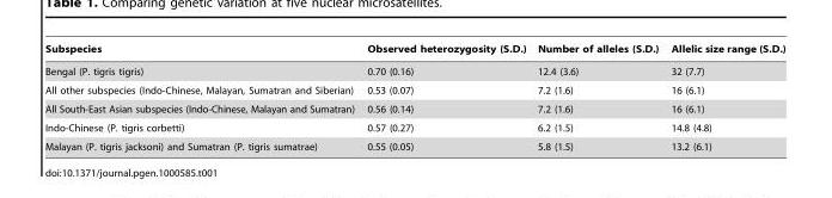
<table><thead><tr><td>Subspecies</td><td>Observed heterozygosity (S.D.)</td><td>Number of alleles (S.D.)</td><td>Allelic size range (S.D.)</td></tr></thead><tbody><tr><td>Bengal (P. tigris tigris)</td><td>0.70 (0.16)</td><td>12.4 (3.6)</td><td>32 (7.7)</td></tr><tr><td>All other subspecies (Indo-Chinese, Malayan, Sumatran and Siberian)</td><td>0.53 (0.07)</td><td>7.2 (1.6)</td><td>16 (6.1)</td></tr><tr><td>All South-East Asian subspecies (Indo-Chinese, Malayan and Sumatran)</td><td>0.56 (0.14)</td><td>7.2 (1.6)</td><td>16 (6.1)</td></tr><tr><td>Indo-Chinese (P. tigris corbetti)</td><td>0.57 (0.27)</td><td>6.2 (1.5)</td><td>14.8 (4.8)</td></tr><tr><td>Malayan (P. tigris jacksoni) and Sumatran (P. tigris sumatrae)</td><td>0.55 (0.05)</td><td>5.8 (1.5)</td><td>13.2 (6.1)</td></tr></tbody></table>